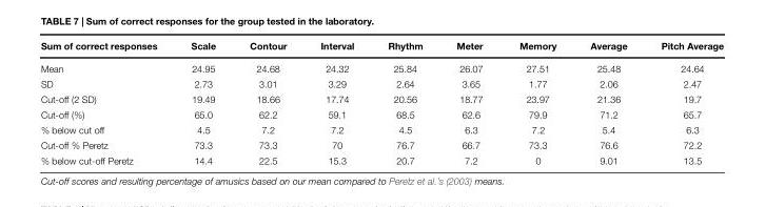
<table><thead><tr><td>Sum of correct responses</td><td>Scale</td><td>Contour</td><td>Interval</td><td>Rhythm</td><td>Meter</td><td>Memory</td><td>Average</td><td>Pitch Average</td></tr></thead><tbody><tr><td>Mean</td><td>24.95</td><td>24.68</td><td>24.32</td><td>25.84</td><td>26.07</td><td>27.51</td><td>25.48</td><td>24.64</td></tr><tr><td>SD</td><td>2.73</td><td>3.01</td><td>3.29</td><td>2.64</td><td>3.65</td><td>1.77</td><td>2.06</td><td>2.47</td></tr><tr><td>Cut-off (2 SD)</td><td>19.49</td><td>18.66</td><td>17.74</td><td>20.56</td><td>18.77</td><td>23.97</td><td>21.36</td><td>19.7</td></tr><tr><td>Cut-off (%)</td><td>65.0</td><td>62.2</td><td>59.1</td><td>68.5</td><td>62.6</td><td>79.9</td><td>71.2</td><td>65.7</td></tr><tr><td>% below cut off</td><td>4.5</td><td>7.2</td><td>7.2</td><td>4.5</td><td>6.3</td><td>7.2</td><td>5.4</td><td>6.3</td></tr><tr><td>Cut-off % Peretz</td><td>73.3</td><td>73.3</td><td>70</td><td>76.7</td><td>66.7</td><td>73.3</td><td>76.6</td><td>72.2</td></tr><tr><td>% below cut-off Peretz</td><td>14.4</td><td>22.5</td><td>15.3</td><td>20.7</td><td>7.2</td><td>0</td><td>9.01</td><td>13.5</td></tr></tbody></table>